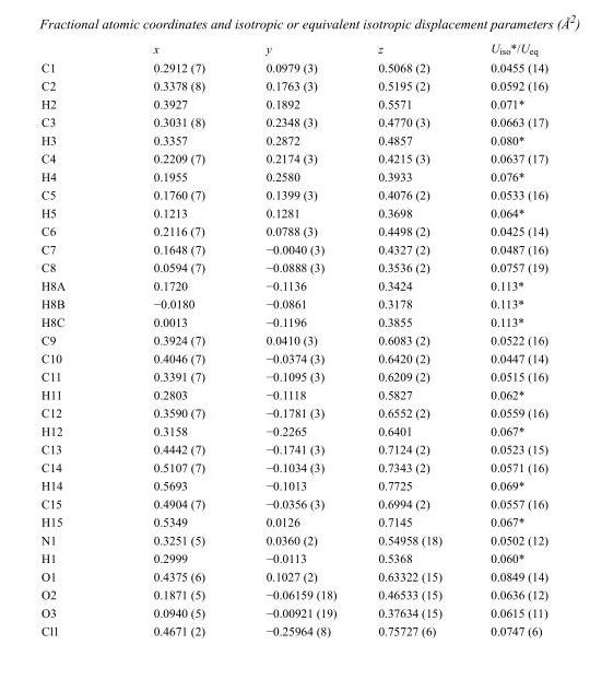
<table><thead><tr><td></td><td>x</td><td>y</td><td>z</td><td>U<sub>iso</sub>*/U<sub>eq</sub></td></tr></thead><tbody><tr><td>C1</td><td>0.2912 (7)</td><td>0.0979 (3)</td><td>0.5068 (2)</td><td>0.0455 (14)</td></tr><tr><td>C2</td><td>0.3378 (8)</td><td>0.1763 (3)</td><td>0.5195 (2)</td><td>0.0592 (16)</td></tr><tr><td>H2</td><td>0.3927</td><td>0.1892</td><td>0.5571</td><td>0.071*</td></tr><tr><td>C3</td><td>0.3031 (8)</td><td>0.2348 (3)</td><td>0.4770 (3)</td><td>0.0663 (17)</td></tr><tr><td>H3</td><td>0.3357</td><td>0.2872</td><td>0.4857</td><td>0.080*</td></tr><tr><td>C4</td><td>0.2209 (7)</td><td>0.2174 (3)</td><td>0.4215 (3)</td><td>0.0637 (17)</td></tr><tr><td>H4</td><td>0.1955</td><td>0.2580</td><td>0.3933</td><td>0.076*</td></tr><tr><td>C5</td><td>0.1760 (7)</td><td>0.1399 (3)</td><td>0.4076 (2)</td><td>0.0533 (16)</td></tr><tr><td>H5</td><td>0.1213</td><td>0.1281</td><td>0.3698</td><td>0.064*</td></tr><tr><td>C6</td><td>0.2116 (7)</td><td>0.0788 (3)</td><td>0.4498 (2)</td><td>0.0425 (14)</td></tr><tr><td>C7</td><td>0.1648 (7)</td><td>−0.0040 (3)</td><td>0.4327 (2)</td><td>0.0487 (16)</td></tr><tr><td>C8</td><td>0.0594 (7)</td><td>−0.0888 (3)</td><td>0.3536 (2)</td><td>0.0757 (19)</td></tr><tr><td>H8A</td><td>0.1720</td><td>−0.1136</td><td>0.3424</td><td>0.113*</td></tr><tr><td>H8B</td><td>−0.0180</td><td>−0.0861</td><td>0.3178</td><td>0.113*</td></tr><tr><td>H8C</td><td>0.0013</td><td>−0.1196</td><td>0.3855</td><td>0.113*</td></tr><tr><td>C9</td><td>0.3924 (7)</td><td>0.0410 (3)</td><td>0.6083 (2)</td><td>0.0522 (16)</td></tr><tr><td>C10</td><td>0.4046 (7)</td><td>−0.0374 (3)</td><td>0.6420 (2)</td><td>0.0447 (14)</td></tr><tr><td>C11</td><td>0.3391 (7)</td><td>−0.1095 (3)</td><td>0.6209 (2)</td><td>0.0515 (16)</td></tr><tr><td>H11</td><td>0.2803</td><td>−0.1118</td><td>0.5827</td><td>0.062*</td></tr><tr><td>C12</td><td>0.3590 (7)</td><td>−0.1781 (3)</td><td>0.6552 (2)</td><td>0.0559 (16)</td></tr><tr><td>H12</td><td>0.3158</td><td>−0.2265</td><td>0.6401</td><td>0.067*</td></tr><tr><td>C13</td><td>0.4442 (7)</td><td>−0.1741 (3)</td><td>0.7124 (2)</td><td>0.0523 (15)</td></tr><tr><td>C14</td><td>0.5107 (7)</td><td>−0.1034 (3)</td><td>0.7343 (2)</td><td>0.0571 (16)</td></tr><tr><td>H14</td><td>0.5693</td><td>−0.1013</td><td>0.7725</td><td>0.069*</td></tr><tr><td>C15</td><td>0.4904 (7)</td><td>−0.0356 (3)</td><td>0.6994 (2)</td><td>0.0557 (16)</td></tr><tr><td>H15</td><td>0.5349</td><td>0.0126</td><td>0.7145</td><td>0.067*</td></tr><tr><td>N1</td><td>0.3251 (5)</td><td>0.0360 (2)</td><td>0.54958 (18)</td><td>0.0502 (12)</td></tr><tr><td>H1</td><td>0.2999</td><td>−0.0113</td><td>0.5368</td><td>0.060*</td></tr><tr><td>O1</td><td>0.4375 (6)</td><td>0.1027 (2)</td><td>0.63322 (15)</td><td>0.0849 (14)</td></tr><tr><td>O2</td><td>0.1871 (5)</td><td>−0.06159 (18)</td><td>0.46533 (15)</td><td>0.0636 (12)</td></tr><tr><td>O3</td><td>0.0940 (5)</td><td>−0.00921 (19)</td><td>0.37634 (15)</td><td>0.0615 (11)</td></tr><tr><td>Cl1</td><td>0.4671 (2)</td><td>−0.25964 (8)</td><td>0.75727 (6)</td><td>0.0747 (6)</td></tr></tbody></table>